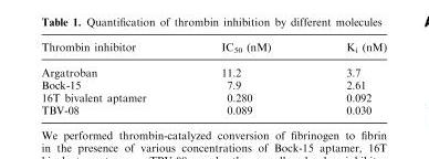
<table><thead><tr><td>Thrombin inhibitor</td><td>IC<sub>50</sub> (nM)</td><td>K<sub>i</sub> (nM)</td></tr></thead><tbody><tr><td>Argatroban</td><td>11.2</td><td>3.7</td></tr><tr><td>Bock-15</td><td>7.9</td><td>2.61</td></tr><tr><td>16T bivalent aptamer</td><td>0.280</td><td>0.092</td></tr><tr><td>TBV-08</td><td>0.089</td><td>0.030</td></tr></tbody></table>